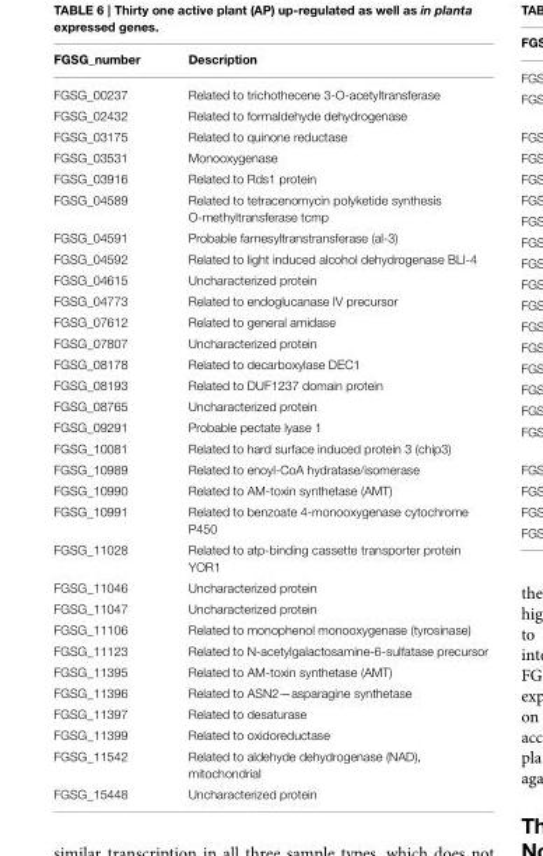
<table><thead><tr><td>FGSG_number</td><td>Description</td></tr></thead><tbody><tr><td>FGSG_00237</td><td>Related to trichothecene 3-O-acetyltransferase</td></tr><tr><td>FGSG_02432</td><td>Related to formaldehyde dehydrogenase</td></tr><tr><td>FGSG_03175</td><td>Related to quinone reductase</td></tr><tr><td>FGSG_03531</td><td>Monooxygenase</td></tr><tr><td>FGSG_03916</td><td>Related to Rds1 protein</td></tr><tr><td>FGSG_04589</td><td>Related to tetracenomycin polyketide synthesis O-methyltransferase tcmp</td></tr><tr><td>FGSG_04591</td><td>Probable farnesyltranstransferase (al-3)</td></tr><tr><td>FGSG_04592</td><td>Related to light induced alcohol dehydrogenase BLI-4</td></tr><tr><td>FGSG_04615</td><td>Uncharacterized protein</td></tr><tr><td>FGSG_04773</td><td>Related to endoglucanase IV precursor</td></tr><tr><td>FGSG_07612</td><td>Related to general amidase</td></tr><tr><td>FGSG_07807</td><td>Uncharacterized protein</td></tr><tr><td>FGSG_08178</td><td>Related to decarboxylase DEC1</td></tr><tr><td>FGSG_08193</td><td>Related to DUF1237 domain protein</td></tr><tr><td>FGSG_08765</td><td>Uncharacterized protein</td></tr><tr><td>FGSG_09291</td><td>Probable pectate lyase 1</td></tr><tr><td>FGSG_10081</td><td>Related to hard surface induced protein 3 (chip3)</td></tr><tr><td>FGSG_10989</td><td>Related to enoyl-CoA hydratase/isomerase</td></tr><tr><td>FGSG_10990</td><td>Related to AM-toxin synthetase (AMT)</td></tr><tr><td>FGSG_10991</td><td>Related to benzoate 4-monooxygenase cytochrome P450</td></tr><tr><td>FGSG_11028</td><td>Related to atp-binding cassette transporter protein YOR1</td></tr><tr><td>FGSG_11046</td><td>Uncharacterized protein</td></tr><tr><td>FGSG_11047</td><td>Uncharacterized protein</td></tr><tr><td>FGSG_11106</td><td>Related to monophenol monooxygenase (tyrosinase)</td></tr><tr><td>FGSG_11123</td><td>Related to N-acetylgalactosamine-6-sulfatase precursor</td></tr><tr><td>FGSG_11395</td><td>Related to AM-toxin synthetase (AMT)</td></tr><tr><td>FGSG_11396</td><td>Related to ASN2—asparagine synthetase</td></tr><tr><td>FGSG_11397</td><td>Related to desaturase</td></tr><tr><td>FGSG_11399</td><td>Related to oxidoreductase</td></tr><tr><td>FGSG_11542</td><td>Related to aldehyde dehydrogenase (NAD), mitochondrial</td></tr><tr><td>FGSG_15448</td><td>Uncharacterized protein</td></tr></tbody></table>